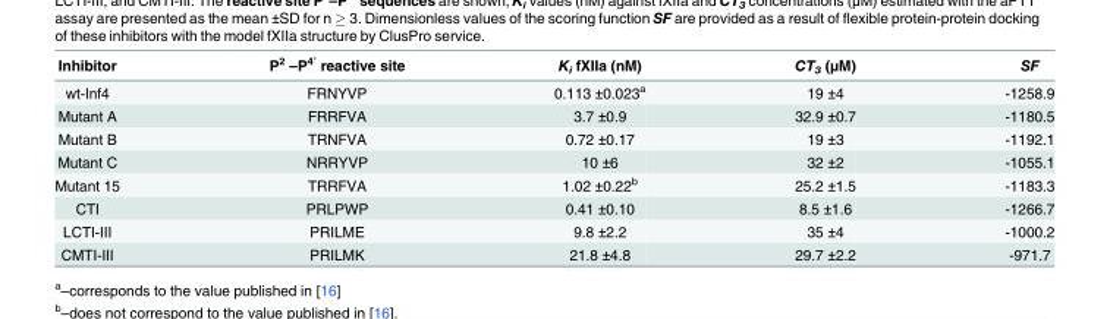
<table><thead><tr><td>Inhibitor</td><td>P<sup>2</sup> –P<sup>4’</sup> reactive site</td><td>K<sub>i</sub> fXIIa (nM)</td><td>CT<sub>3</sub> (μM)</td><td>SF</td></tr></thead><tbody><tr><td>wt-Inf4</td><td>FRNYVP</td><td>0.113 ±0.023<sup>a</sup></td><td>19 ±4</td><td>-1258.9</td></tr><tr><td>Mutant A</td><td>FRRFVA</td><td>3.7 ±0.9</td><td>32.9 ±0.7</td><td>-1180.5</td></tr><tr><td>Mutant B</td><td>TRNFVA</td><td>0.72 ±0.17</td><td>19 ±3</td><td>-1192.1</td></tr><tr><td>Mutant C</td><td>NRRYVP</td><td>10 ±6</td><td>32 ±2</td><td>-1055.1</td></tr><tr><td>Mutant 15</td><td>TRRFVA</td><td>1.02 ±0.22<sup>b</sup></td><td>25.2 ±1.5</td><td>-1183.3</td></tr><tr><td>CTI</td><td>PRLPWP</td><td>0.41 ±0.10</td><td>8.5 ±1.6</td><td>-1266.7</td></tr><tr><td>LCTI-III</td><td>PRILME</td><td>9.8 ±2.2</td><td>35 ±4</td><td>-1000.2</td></tr><tr><td>CMTI-III</td><td>PRILMK</td><td>21.8 ±4.8</td><td>29.7 ±2.2</td><td>-971.7</td></tr></tbody></table>